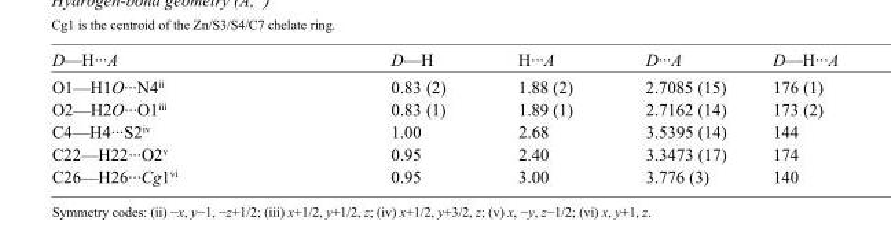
<table><tbody><tr><td>D—H···A</td><td>D—H</td><td>H···A</td><td>D···A</td><td>D—H···A</td></tr><tr><td>O1—H1O···N4<sup>ii</sup></td><td>0.83 (2)</td><td>1.88 (2)</td><td>2.7085 (15)</td><td>176 (1)</td></tr><tr><td>O2—H2O···O1<sup>iii</sup></td><td>0.83 (1)</td><td>1.89 (1)</td><td>2.7162 (14)</td><td>173 (2)</td></tr><tr><td>C4—H4···S2<sup>iv</sup></td><td>1.00</td><td>2.68</td><td>3.5395 (14)</td><td>144</td></tr><tr><td>C22—H22···O2<sup>v</sup></td><td>0.95</td><td>2.40</td><td>3.3473 (17)</td><td>174</td></tr><tr><td>C26—H26···Cg1<sup>vi</sup></td><td>0.95</td><td>3.00</td><td>3.776 (3)</td><td>140</td></tr></tbody></table>